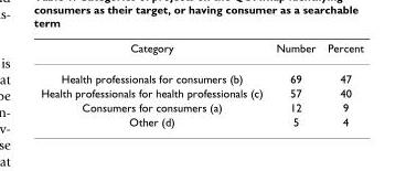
<table><thead><tr><td>Category</td><td>Number</td><td>Percent</td></tr></thead><tbody><tr><td>Health professionals for consumers (b)</td><td>69</td><td>47</td></tr><tr><td>Health professionals for health professionals (c)</td><td>57</td><td>40</td></tr><tr><td>Consumers for consumers (a)</td><td>12</td><td>9</td></tr><tr><td>Other (d)</td><td>5</td><td>4</td></tr></tbody></table>